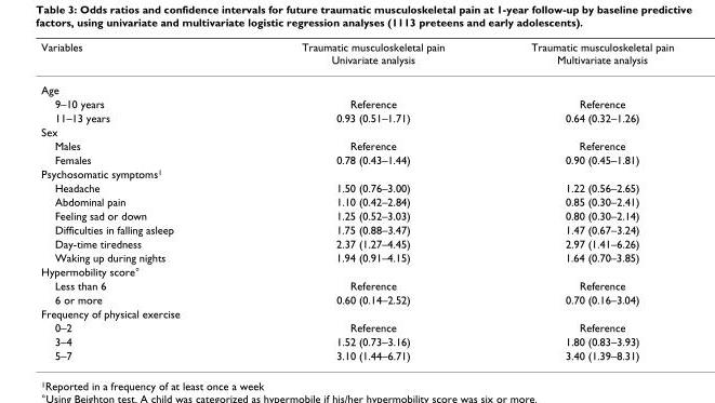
<table><thead><tr><td>Variables</td><td>Traumatic musculoskeletal pain Univariate analysis</td><td>Traumatic musculoskeletal pain Multivariate analysis</td></tr></thead><tbody><tr><td colspan="3">Age</td></tr><tr><td>9–10 years</td><td>Reference</td><td>Reference</td></tr><tr><td>11–13 years</td><td>0.93 (0.51–1.71)</td><td>0.64 (0.32–1.26)</td></tr><tr><td colspan="3">Sex</td></tr><tr><td>Males</td><td>Reference</td><td>Reference</td></tr><tr><td>Females</td><td>0.78 (0.43–1.44)</td><td>0.90 (0.45–1.81)</td></tr><tr><td colspan="3">Psychosomatic symptoms1</td></tr><tr><td>Headache</td><td>1.50 (0.76–3.00)</td><td>1.22 (0.56–2.65)</td></tr><tr><td>Abdominal pain</td><td>1.10 (0.42–2.84)</td><td>0.85 (0.30–2.41)</td></tr><tr><td>Feeling sad or down</td><td>1.25 (0.52–3.03)</td><td>0.80 (0.30–2.14)</td></tr><tr><td>Difficulties in falling asleep</td><td>1.75 (0.88–3.47)</td><td>1.47 (0.67–3.24)</td></tr><tr><td>Day-time tiredness</td><td>2.37 (1.27–4.45)</td><td>2.97 (1.41–6.26)</td></tr><tr><td>Waking up during nights</td><td>1.94 (0.91–4.15)</td><td>1.64 (0.70–3.85)</td></tr><tr><td colspan="3">Hypermobility score°</td></tr><tr><td>Less than 6</td><td>Reference</td><td>Reference</td></tr><tr><td>6 or more</td><td>0.60 (0.14–2.52)</td><td>0.70 (0.16–3.04)</td></tr><tr><td colspan="3">Frequency of physical exercise</td></tr><tr><td>0–2</td><td>Reference</td><td>Reference</td></tr><tr><td>3–4</td><td>1.52 (0.73–3.16)</td><td>1.80 (0.83–3.93)</td></tr><tr><td>5–7</td><td>3.10 (1.44–6.71)</td><td>3.40 (1.39–8.31)</td></tr></tbody></table>